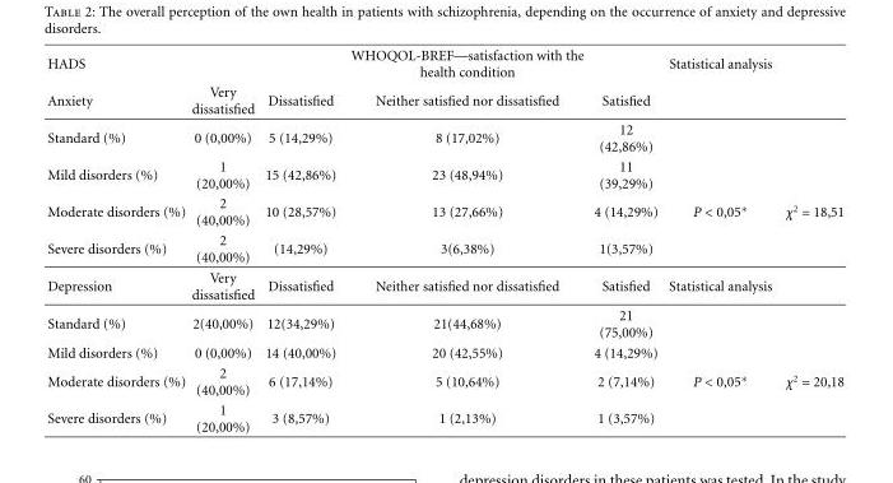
<table><thead><tr><td rowspan="2">HADS Anxiety</td><td rowspan="2">Very dissatisfied</td><td rowspan="2">Dissatisfied</td><td rowspan="2">WHOQOL-BREF—satisfaction with the health condition Neither satisfied nor dissatisfied</td><td rowspan="2">Satisfied</td><td rowspan="2">Statistical analysis</td><td rowspan="2"></td></tr><tr></tr></thead><tbody><tr><td>Standard (%)</td><td>0 (0,00%)</td><td>5 (14,29%)</td><td>8 (17,02%)</td><td>12 (42,86%)</td><td></td><td></td></tr><tr><td>Mild disorders (%)</td><td>1 (20,00%)</td><td>15 (42,86%)</td><td>23 (48,94%)</td><td>11 (39,29%)</td><td></td><td></td></tr><tr><td>Moderate disorders (%)</td><td>2 (40,00%)</td><td>10 (28,57%)</td><td>13 (27,66%)</td><td>4 (14,29%)</td><td>P &lt; 0,05∗</td><td>χ2 = 18,51</td></tr><tr><td>Severe disorders (%)</td><td>2 (40,00%)</td><td>(14,29%)</td><td>3(6,38%)</td><td>1(3,57%)</td><td></td><td></td></tr><tr><td>Depression</td><td>Very dissatisfied</td><td>Dissatisfied</td><td>Neither satisfied nor dissatisfied</td><td>Satisfied</td><td>Statistical analysis</td><td></td></tr><tr><td>Standard (%)</td><td>2(40,00%)</td><td>12(34,29%)</td><td>21(44,68%)</td><td>21 (75,00%)</td><td></td><td></td></tr><tr><td>Mild disorders (%)</td><td>0 (0,00%)</td><td>14 (40,00%)</td><td>20 (42,55%)</td><td>4 (14,29%)</td><td></td><td></td></tr><tr><td>Moderate disorders (%)</td><td>2 (40,00%)</td><td>6 (17,14%)</td><td>5 (10,64%)</td><td>2 (7,14%)</td><td>P &lt; 0,05∗</td><td>χ2 = 20,18</td></tr><tr><td>Severe disorders (%)</td><td>1 (20,00%)</td><td>3 (8,57%)</td><td>1 (2,13%)</td><td>1 (3,57%)</td><td></td><td></td></tr></tbody></table>